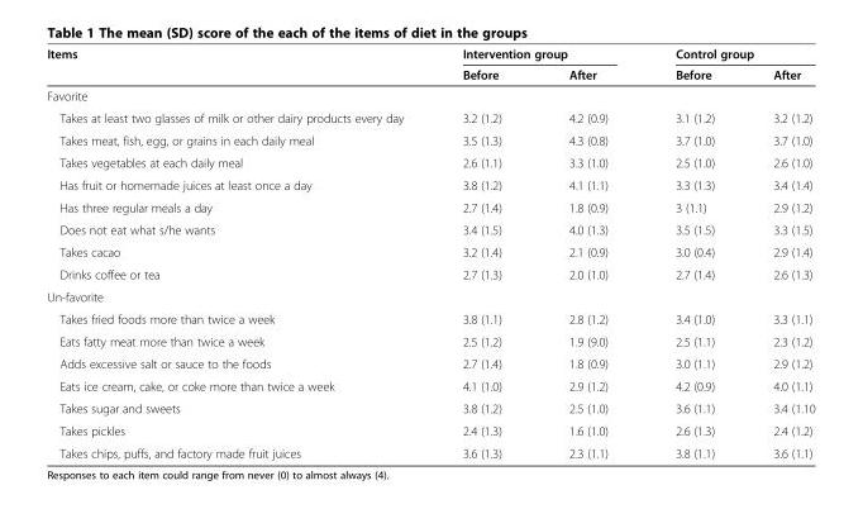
<table><thead><tr><td rowspan="2">Items</td><td colspan="2">Intervention group</td><td colspan="2">Control group</td></tr><tr><td>Before</td><td>After</td><td>Before</td><td>After</td></tr></thead><tbody><tr><td colspan="5">Favorite</td></tr><tr><td>Takes at least two glasses of milk or other dairy products every day</td><td>3.2 (1.2)</td><td>4.2 (0.9)</td><td>3.1 (1.2)</td><td>3.2 (1.2)</td></tr><tr><td>Takes meat, fish, egg, or grains in each daily meal</td><td>3.5 (1.3)</td><td>4.3 (0.8)</td><td>3.7 (1.0)</td><td>3.7 (1.0)</td></tr><tr><td>Takes vegetables at each daily meal</td><td>2.6 (1.1)</td><td>3.3 (1.0)</td><td>2.5 (1.0)</td><td>2.6 (1.0)</td></tr><tr><td>Has fruit or homemade juices at least once a day</td><td>3.8 (1.2)</td><td>4.1 (1.1)</td><td>3.3 (1.3)</td><td>3.4 (1.4)</td></tr><tr><td>Has three regular meals a day</td><td>2.7 (1.4)</td><td>1.8 (0.9)</td><td>3 (1.1)</td><td>2.9 (1.2)</td></tr><tr><td>Does not eat what s/he wants</td><td>3.4 (1.5)</td><td>4.0 (1.3)</td><td>3.5 (1.5)</td><td>3.3 (1.5)</td></tr><tr><td>Takes cacao</td><td>3.2 (1.4)</td><td>2.1 (0.9)</td><td>3.0 (0.4)</td><td>2.9 (1.4)</td></tr><tr><td>Drinks coffee or tea</td><td>2.7 (1.3)</td><td>2.0 (1.0)</td><td>2.7 (1.4)</td><td>2.6 (1.3)</td></tr><tr><td colspan="5">Un-favorite</td></tr><tr><td>Takes fried foods more than twice a week</td><td>3.8 (1.1)</td><td>2.8 (1.2)</td><td>3.4 (1.0)</td><td>3.3 (1.1)</td></tr><tr><td>Eats fatty meat more than twice a week</td><td>2.5 (1.2)</td><td>1.9 (9.0)</td><td>2.5 (1.1)</td><td>2.3 (1.2)</td></tr><tr><td>Adds excessive salt or sauce to the foods</td><td>2.7 (1.4)</td><td>1.8 (0.9)</td><td>3.0 (1.1)</td><td>2.9 (1.2)</td></tr><tr><td>Eats ice cream, cake, or coke more than twice a week</td><td>4.1 (1.0)</td><td>2.9 (1.2)</td><td>4.2 (0.9)</td><td>4.0 (1.1)</td></tr><tr><td>Takes sugar and sweets</td><td>3.8 (1.2)</td><td>2.5 (1.0)</td><td>3.6 (1.1)</td><td>3.4 (1.10</td></tr><tr><td>Takes pickles</td><td>2.4 (1.3)</td><td>1.6 (1.0)</td><td>2.6 (1.3)</td><td>2.4 (1.2)</td></tr><tr><td>Takes chips, puffs, and factory made fruit juices</td><td>3.6 (1.3)</td><td>2.3 (1.1)</td><td>3.8 (1.1)</td><td>3.6 (1.1)</td></tr></tbody></table>